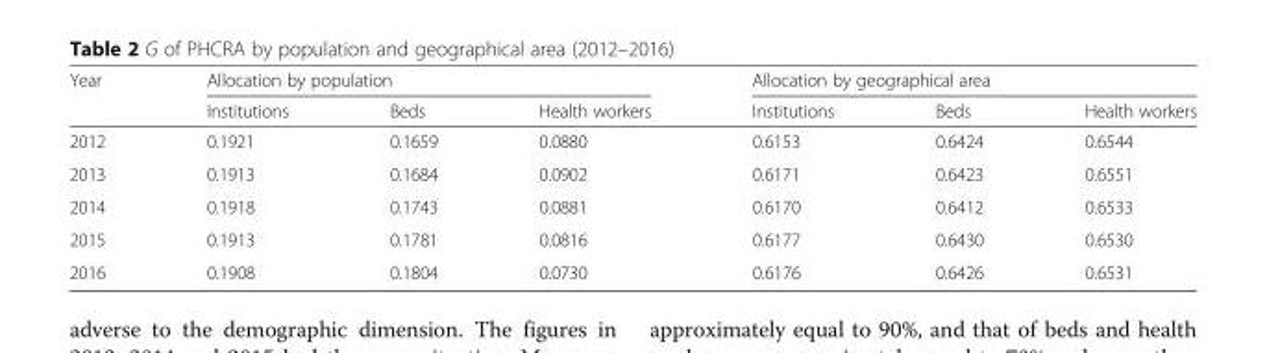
<table><thead><tr><td rowspan="2">Year</td><td colspan="3">Allocation by population</td><td colspan="3">Allocation by geographical area</td></tr><tr><td>Institutions</td><td>Beds</td><td>Health workers</td><td>Institutions</td><td>Beds</td><td>Health workers</td></tr></thead><tbody><tr><td>2012</td><td>0.1921</td><td>0.1659</td><td>0.0880</td><td>0.6153</td><td>0.6424</td><td>0.6544</td></tr><tr><td>2013</td><td>0.1913</td><td>0.1684</td><td>0.0902</td><td>0.6171</td><td>0.6423</td><td>0.6551</td></tr><tr><td>2014</td><td>0.1918</td><td>0.1743</td><td>0.0881</td><td>0.6170</td><td>0.6412</td><td>0.6533</td></tr><tr><td>2015</td><td>0.1913</td><td>0.1781</td><td>0.0816</td><td>0.6177</td><td>0.6430</td><td>0.6530</td></tr><tr><td>2016</td><td>0.1908</td><td>0.1804</td><td>0.0730</td><td>0.6176</td><td>0.6426</td><td>0.6531</td></tr></tbody></table>